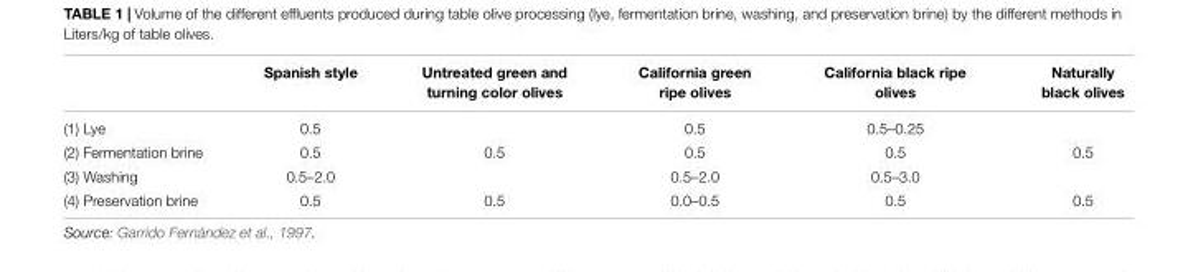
<table><thead><tr><td></td><td>Spanish style</td><td>Untreated green and turning color olives</td><td>California green ripe olives</td><td>California black ripe olives</td><td>Naturally black olives</td></tr></thead><tbody><tr><td>(1) Lye</td><td>0.5</td><td></td><td>0.5</td><td>0.5–0.25</td><td></td></tr><tr><td>(2) Fermentation brine</td><td>0.5</td><td>0.5</td><td>0.5</td><td>0.5</td><td>0.5</td></tr><tr><td>(3) Washing</td><td>0.5–2.0</td><td></td><td>0.5–2.0</td><td>0.5–3.0</td><td></td></tr><tr><td>(4) Preservation brine</td><td>0.5</td><td>0.5</td><td>0.0–0.5</td><td>0.5</td><td>0.5</td></tr></tbody></table>